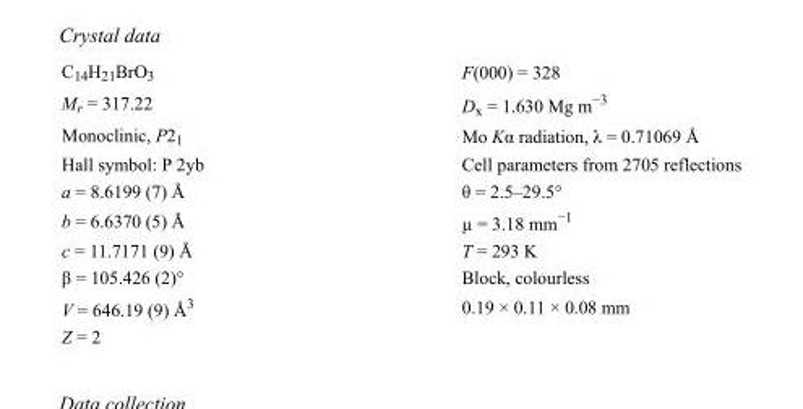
<table><tbody><tr><td>C<sub>14</sub>H<sub>21</sub>BrO<sub>3</sub></td><td>F(000) = 328</td></tr><tr><td>M<sub>r</sub> = 317.22</td><td>D<sub>x</sub> = 1.630 Mg m<sup>−3</sup></td></tr><tr><td>Monoclinic, P2<sub>1</sub></td><td>Mo Kα radiation, λ = 0.71069 Å</td></tr><tr><td>Hall symbol: P 2yb</td><td>Cell parameters from 2705 reflections</td></tr><tr><td>a = 8.6199 (7) Å</td><td>θ = 2.5–29.5°</td></tr><tr><td>b = 6.6370 (5) Å</td><td>µ = 3.18 mm<sup>−1</sup></td></tr><tr><td>c = 11.7171 (9) Å</td><td>T = 293 K</td></tr><tr><td>β = 105.426 (2)°</td><td>Block, colourless</td></tr><tr><td>V = 646.19 (9) Å<sup>3</sup></td><td>0.19 × 0.11 × 0.08 mm</td></tr><tr><td>Z = 2</td><td></td></tr></tbody></table>